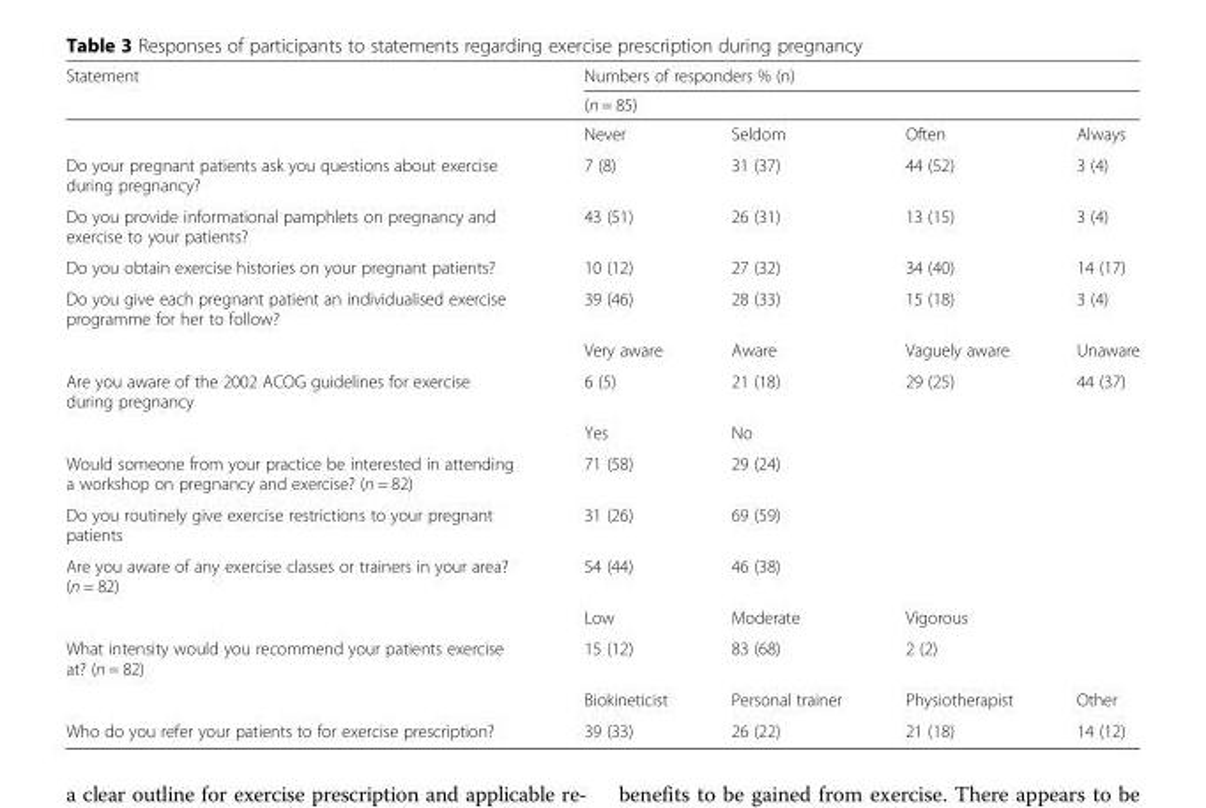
<table><thead><tr><td rowspan="3">Statement</td><td rowspan="2" colspan="4">Numbers of responders % (n) (n = 85)</td></tr><tr></tr><tr><td>Never</td><td>Seldom</td><td>Often</td><td>Always</td></tr></thead><tbody><tr><td>Do your pregnant patients ask you questions about exercise during pregnancy?</td><td>7 (8)</td><td>31 (37)</td><td>44 (52)</td><td>3 (4)</td></tr><tr><td>Do you provide informational pamphlets on pregnancy and exercise to your patients?</td><td>43 (51)</td><td>26 (31)</td><td>13 (15)</td><td>3 (4)</td></tr><tr><td>Do you obtain exercise histories on your pregnant patients?</td><td>10 (12)</td><td>27 (32)</td><td>34 (40)</td><td>14 (17)</td></tr><tr><td rowspan="2">Do you give each pregnant patient an individualised exercise programme for her to follow?</td><td>39 (46)</td><td>28 (33)</td><td>15 (18)</td><td>3 (4)</td></tr><tr><td>Very aware</td><td>Aware</td><td>Vaguely aware</td><td>Unaware</td></tr><tr><td rowspan="2">Are you aware of the 2002 ACOG guidelines for exercise during pregnancy</td><td>6 (5)</td><td>21 (18)</td><td>29 (25)</td><td>44 (37)</td></tr><tr><td>Yes</td><td>No</td><td rowspan="4" colspan="2"></td></tr><tr><td>Would someone from your practice be interested in attending a workshop on pregnancy and exercise? (n = 82)</td><td>71 (58)</td><td>29 (24)</td></tr><tr><td>Do you routinely give exercise restrictions to your pregnant patients</td><td>31 (26)</td><td>69 (59)</td></tr><tr><td rowspan="2">Are you aware of any exercise classes or trainers in your area? (n = 82)</td><td>54 (44)</td><td>46 (38)</td></tr><tr><td>Low</td><td>Moderate</td><td>Vigorous</td><td rowspan="2"></td></tr><tr><td rowspan="2">What intensity would you recommend your patients exercise at? (n = 82)</td><td>15 (12)</td><td>83 (68)</td><td>2 (2)</td></tr><tr><td>Biokineticist</td><td>Personal trainer</td><td>Physiotherapist</td><td>Other</td></tr><tr><td>Who do you refer your patients to for exercise prescription?</td><td>39 (33)</td><td>26 (22)</td><td>21 (18)</td><td>14 (12)</td></tr></tbody></table>